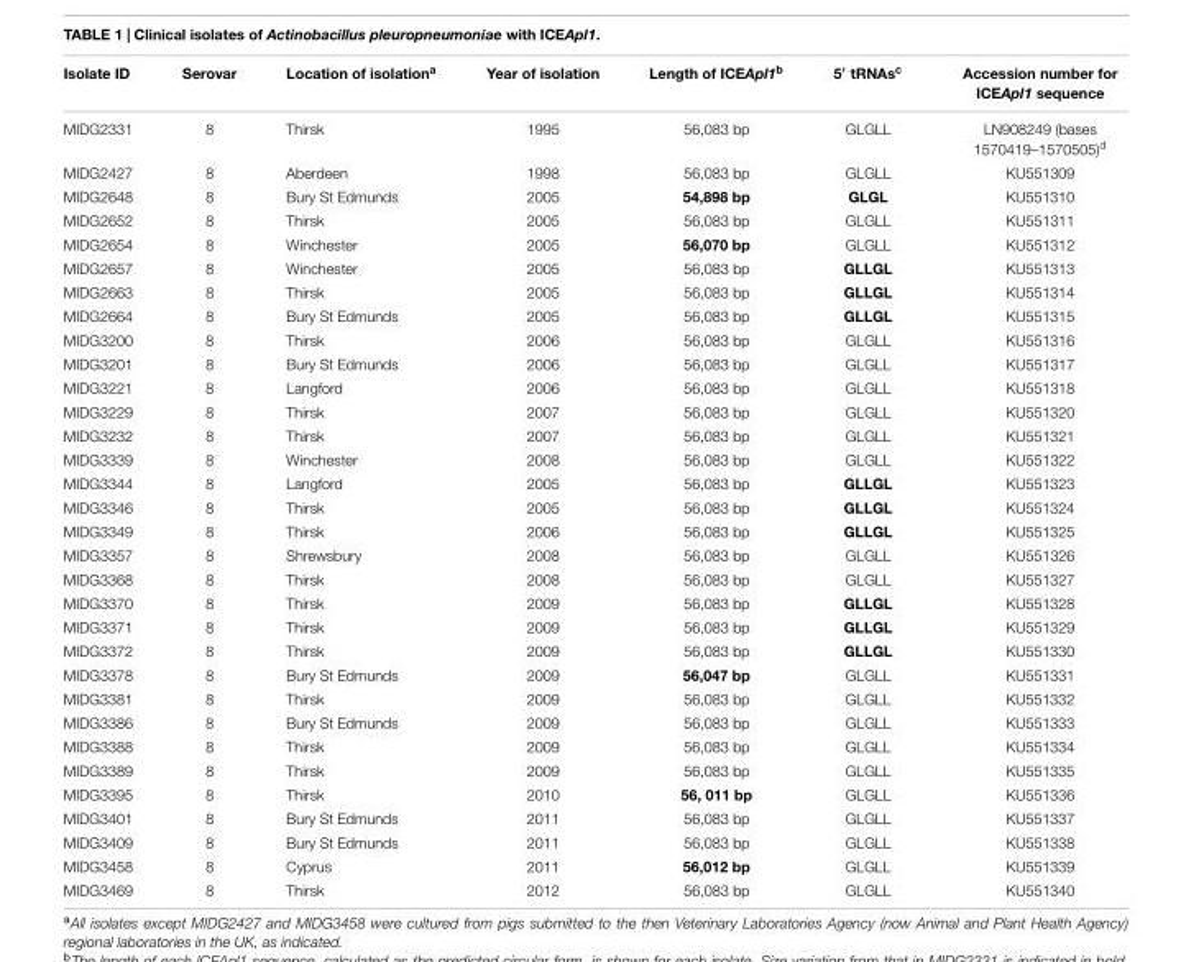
<table><thead><tr><td>Isolate ID</td><td>Serovar</td><td>Location of isolation<sup>a</sup></td><td>Year of isolation</td><td>Length of ICEApl1<sup>b</sup></td><td>5′ tRNAs<sup>c</sup></td><td>Accession number for ICEApl1 sequence</td></tr></thead><tbody><tr><td>MIDG2331</td><td>8</td><td>Thirsk</td><td>1995</td><td>56,083 bp</td><td>GLGLL</td><td>LN908249 (bases 1570419–1570505)<sup>d</sup></td></tr><tr><td>MIDG2427</td><td>8</td><td>Aberdeen</td><td>1998</td><td>56,083 bp</td><td>GLGLL</td><td>KU551309</td></tr><tr><td>MIDG2648</td><td>8</td><td>Bury St Edmunds</td><td>2005</td><td>54,898 bp</td><td>GLGL</td><td>KU551310</td></tr><tr><td>MIDG2652</td><td>8</td><td>Thirsk</td><td>2005</td><td>56,083 bp</td><td>GLGLL</td><td>KU551311</td></tr><tr><td>MIDG2654</td><td>8</td><td>Winchester</td><td>2005</td><td>56,070 bp</td><td>GLGLL</td><td>KU551312</td></tr><tr><td>MIDG2657</td><td>8</td><td>Winchester</td><td>2005</td><td>56,083 bp</td><td>GLLGL</td><td>KU551313</td></tr><tr><td>MIDG2663</td><td>8</td><td>Thirsk</td><td>2005</td><td>56,083 bp</td><td>GLLGL</td><td>KU551314</td></tr><tr><td>MIDG2664</td><td>8</td><td>Bury St Edmunds</td><td>2005</td><td>56,083 bp</td><td>GLLGL</td><td>KU551315</td></tr><tr><td>MIDG3200</td><td>8</td><td>Thirsk</td><td>2006</td><td>56,083 bp</td><td>GLGLL</td><td>KU551316</td></tr><tr><td>MIDG3201</td><td>8</td><td>Bury St Edmunds</td><td>2006</td><td>56,083 bp</td><td>GLGLL</td><td>KU551317</td></tr><tr><td>MIDG3221</td><td>8</td><td>Langford</td><td>2006</td><td>56,083 bp</td><td>GLGLL</td><td>KU551318</td></tr><tr><td>MIDG3229</td><td>8</td><td>Thirsk</td><td>2007</td><td>56,083 bp</td><td>GLGLL</td><td>KU551320</td></tr><tr><td>MIDG3232</td><td>8</td><td>Thirsk</td><td>2007</td><td>56,083 bp</td><td>GLGLL</td><td>KU551321</td></tr><tr><td>MIDG3339</td><td>8</td><td>Winchester</td><td>2008</td><td>56,083 bp</td><td>GLGLL</td><td>KU551322</td></tr><tr><td>MIDG3344</td><td>8</td><td>Langford</td><td>2005</td><td>56,083 bp</td><td>GLLGL</td><td>KU551323</td></tr><tr><td>MIDG3346</td><td>8</td><td>Thirsk</td><td>2005</td><td>56,083 bp</td><td>GLLGL</td><td>KU551324</td></tr><tr><td>MIDG3349</td><td>8</td><td>Thirsk</td><td>2006</td><td>56,083 bp</td><td>GLLGL</td><td>KU551325</td></tr><tr><td>MIDG3357</td><td>8</td><td>Shrewsbury</td><td>2008</td><td>56,083 bp</td><td>GLGLL</td><td>KU551326</td></tr><tr><td>MIDG3368</td><td>8</td><td>Thirsk</td><td>2008</td><td>56,083 bp</td><td>GLGLL</td><td>KU551327</td></tr><tr><td>MIDG3370</td><td>8</td><td>Thirsk</td><td>2009</td><td>56,083 bp</td><td>GLLGL</td><td>KU551328</td></tr><tr><td>MIDG3371</td><td>8</td><td>Thirsk</td><td>2009</td><td>56,083 bp</td><td>GLLGL</td><td>KU551329</td></tr><tr><td>MIDG3372</td><td>8</td><td>Thirsk</td><td>2009</td><td>56,083 bp</td><td>GLLGL</td><td>KU551330</td></tr><tr><td>MIDG3378</td><td>8</td><td>Bury St Edmunds</td><td>2009</td><td>56,047 bp</td><td>GLGLL</td><td>KU551331</td></tr><tr><td>MIDG3381</td><td>8</td><td>Thirsk</td><td>2009</td><td>56,083 bp</td><td>GLGLL</td><td>KU551332</td></tr><tr><td>MIDG3386</td><td>8</td><td>Bury St Edmunds</td><td>2009</td><td>56,083 bp</td><td>GLGLL</td><td>KU551333</td></tr><tr><td>MIDG3388</td><td>8</td><td>Thirsk</td><td>2009</td><td>56,083 bp</td><td>GLGLL</td><td>KU551334</td></tr><tr><td>MIDG3389</td><td>8</td><td>Thirsk</td><td>2009</td><td>56,083 bp</td><td>GLGLL</td><td>KU551335</td></tr><tr><td>MIDG3395</td><td>8</td><td>Thirsk</td><td>2010</td><td>56, 011 bp</td><td>GLGLL</td><td>KU551336</td></tr><tr><td>MIDG3401</td><td>8</td><td>Bury St Edmunds</td><td>2011</td><td>56,083 bp</td><td>GLGLL</td><td>KU551337</td></tr><tr><td>MIDG3409</td><td>8</td><td>Bury St Edmunds</td><td>2011</td><td>56,083 bp</td><td>GLGLL</td><td>KU551338</td></tr><tr><td>MIDG3458</td><td>8</td><td>Cyprus</td><td>2011</td><td>56,012 bp</td><td>GLGLL</td><td>KU551339</td></tr><tr><td>MIDG3469</td><td>8</td><td>Thirsk</td><td>2012</td><td>56,083 bp</td><td>GLGLL</td><td>KU551340</td></tr></tbody></table>